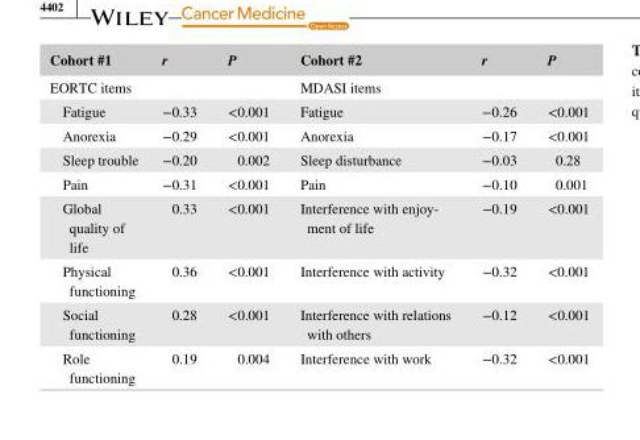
<table><thead><tr><td>Cohort #1</td><td>r</td><td>P</td><td>Cohort #2</td><td>r</td><td>P</td></tr></thead><tbody><tr><td colspan="3">EORTC items</td><td colspan="3">MDASI items</td></tr><tr><td>Fatigue</td><td>−0.33</td><td>&lt;0.001</td><td>Fatigue</td><td>−0.26</td><td>&lt;0.001</td></tr><tr><td>Anorexia</td><td>−0.29</td><td>&lt;0.001</td><td>Anorexia</td><td>−0.17</td><td>&lt;0.001</td></tr><tr><td>Sleep trouble</td><td>−0.20</td><td>0.002</td><td>Sleep disturbance</td><td>−0.03</td><td>0.28</td></tr><tr><td>Pain</td><td>−0.31</td><td>&lt;0.001</td><td>Pain</td><td>−0.10</td><td>0.001</td></tr><tr><td>Global quality of life</td><td>0.33</td><td>&lt;0.001</td><td>Interference with enjoy- ment of life</td><td>−0.19</td><td>&lt;0.001</td></tr><tr><td>Physical functioning</td><td>0.36</td><td>&lt;0.001</td><td>Interference with activity</td><td>−0.32</td><td>&lt;0.001</td></tr><tr><td>Social functioning</td><td>0.28</td><td>&lt;0.001</td><td>Interference with relations with others</td><td>−0.12</td><td>&lt;0.001</td></tr><tr><td>Role functioning</td><td>0.19</td><td>0.004</td><td>Interference with work</td><td>−0.32</td><td>&lt;0.001</td></tr></tbody></table>